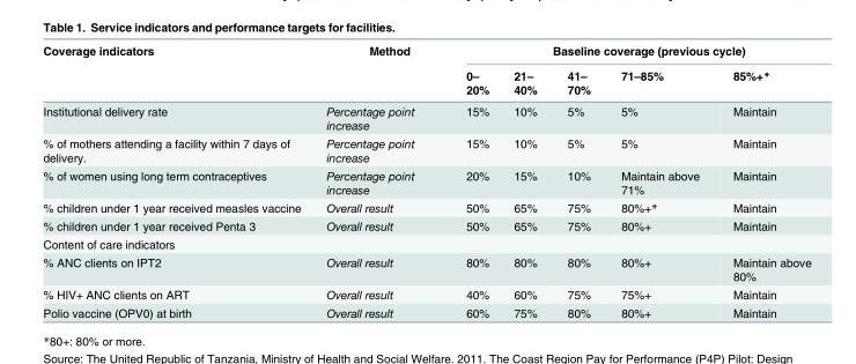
<table><thead><tr><td rowspan="2">Coverage indicators</td><td rowspan="2">Method</td><td colspan="5">Baseline coverage (previous cycle)</td></tr><tr><td>0– 20%</td><td>21– 40%</td><td>41– 70%</td><td>71–85%</td><td>85%+*</td></tr></thead><tbody><tr><td>Institutional delivery rate</td><td>Percentage point increase</td><td>15%</td><td>10%</td><td>5%</td><td>5%</td><td>Maintain</td></tr><tr><td>% of mothers attending a facility within 7 days of delivery.</td><td>Percentage point increase</td><td>15%</td><td>10%</td><td>5%</td><td>5%</td><td>Maintain</td></tr><tr><td>% of women using long term contraceptives</td><td>Percentage point increase</td><td>20%</td><td>15%</td><td>10%</td><td>Maintain above 71%</td><td>Maintain</td></tr><tr><td>% children under 1 year received measles vaccine</td><td>Overall result</td><td>50%</td><td>65%</td><td>75%</td><td>80%+*</td><td>Maintain</td></tr><tr><td>% children under 1 year received Penta 3</td><td>Overall result</td><td>50%</td><td>65%</td><td>75%</td><td>80%+</td><td>Maintain</td></tr><tr><td colspan="7">Content of care indicators</td></tr><tr><td>% ANC clients on IPT2</td><td>Overall result</td><td>80%</td><td>80%</td><td>80%</td><td>80%+</td><td>Maintain above 80%</td></tr><tr><td>% HIV+ ANC clients on ART</td><td>Overall result</td><td>40%</td><td>60%</td><td>75%</td><td>75%+</td><td>Maintain</td></tr><tr><td>Polio vaccine (OPV0) at birth</td><td>Overall result</td><td>60%</td><td>75%</td><td>80%</td><td>80%+</td><td>Maintain</td></tr></tbody></table>